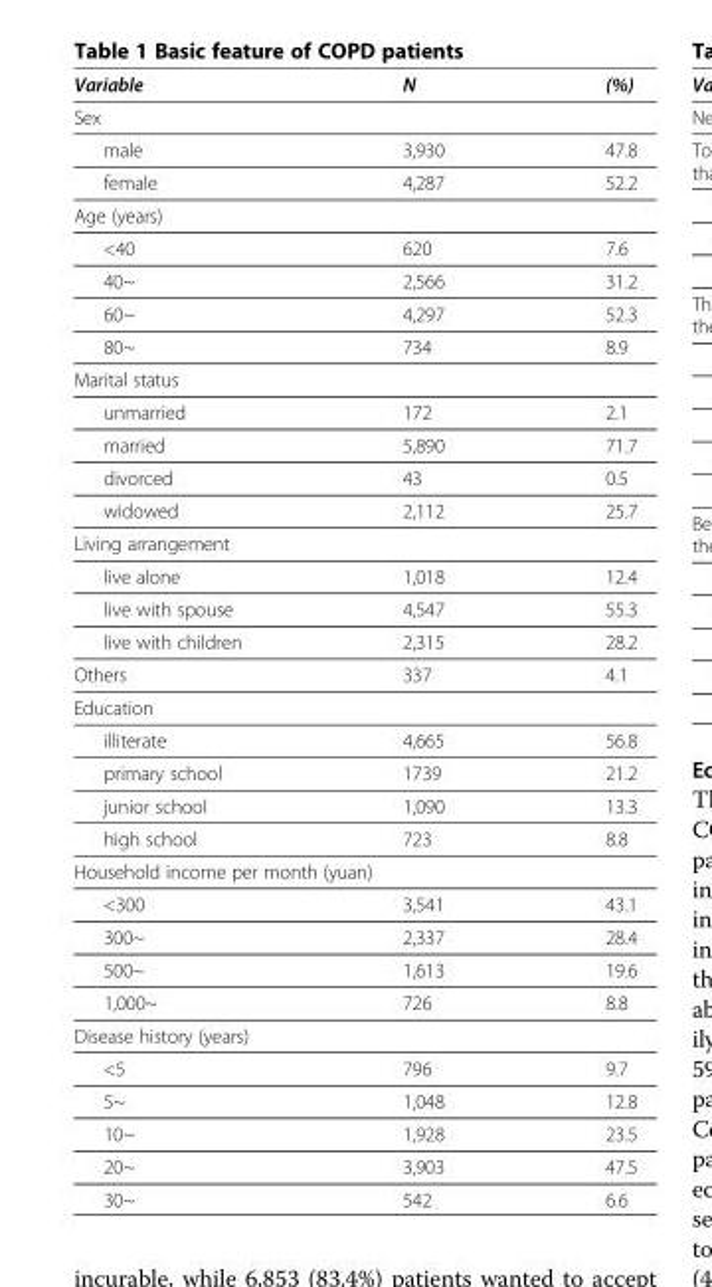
<table><thead><tr><td>Variable</td><td>N</td><td>(%)</td></tr></thead><tbody><tr><td colspan="3">Sex</td></tr><tr><td>male</td><td>3,930</td><td>47.8</td></tr><tr><td>female</td><td>4,287</td><td>52.2</td></tr><tr><td colspan="3">Age (years)</td></tr><tr><td>&lt;40</td><td>620</td><td>7.6</td></tr><tr><td>40~</td><td>2,566</td><td>31.2</td></tr><tr><td>60~</td><td>4,297</td><td>52.3</td></tr><tr><td>80~</td><td>734</td><td>8.9</td></tr><tr><td colspan="3">Marital status</td></tr><tr><td>unmarried</td><td>172</td><td>2.1</td></tr><tr><td>married</td><td>5,890</td><td>71.7</td></tr><tr><td>divorced</td><td>43</td><td>0.5</td></tr><tr><td>widowed</td><td>2,112</td><td>25.7</td></tr><tr><td colspan="3">Living arrangement</td></tr><tr><td>live alone</td><td>1,018</td><td>12.4</td></tr><tr><td>live with spouse</td><td>4,547</td><td>55.3</td></tr><tr><td>live with children</td><td>2,315</td><td>28.2</td></tr><tr><td>Others</td><td>337</td><td>4.1</td></tr><tr><td colspan="3">Education</td></tr><tr><td>illiterate</td><td>4,665</td><td>56.8</td></tr><tr><td>primary school</td><td>1739</td><td>21.2</td></tr><tr><td>junior school</td><td>1,090</td><td>13.3</td></tr><tr><td>high school</td><td>723</td><td>8.8</td></tr><tr><td colspan="3">Household income per month (yuan)</td></tr><tr><td>&lt;300</td><td>3,541</td><td>43.1</td></tr><tr><td>300~</td><td>2,337</td><td>28.4</td></tr><tr><td>500~</td><td>1,613</td><td>19.6</td></tr><tr><td>1,000~</td><td>726</td><td>8.8</td></tr><tr><td colspan="3">Disease history (years)</td></tr><tr><td>&lt;5</td><td>796</td><td>9.7</td></tr><tr><td>5~</td><td>1,048</td><td>12.8</td></tr><tr><td>10~</td><td>1,928</td><td>23.5</td></tr><tr><td>20~</td><td>3,903</td><td>47.5</td></tr><tr><td>30~</td><td>542</td><td>6.6</td></tr></tbody></table>